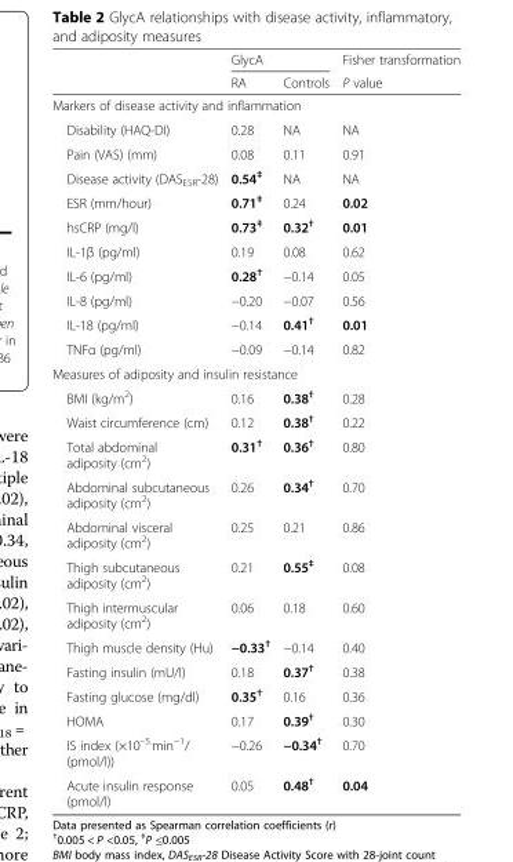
<table><thead><tr><td rowspan="2"></td><td colspan="2">GlycA</td><td rowspan="2">Fisher transformation P value</td></tr><tr><td>RA</td><td>Controls</td></tr></thead><tbody><tr><td colspan="4">Markers of disease activity and inflammation</td></tr><tr><td>Disability (HAQ-DI)</td><td>0.28</td><td>NA</td><td>NA</td></tr><tr><td>Pain (VAS) (mm)</td><td>0.08</td><td>0.11</td><td>0.91</td></tr><tr><td>Disease activity (DAS<sub>ESR</sub>-28)</td><td>0.54<sup>‡</sup></td><td>NA</td><td>NA</td></tr><tr><td>ESR (mm/hour)</td><td>0.71<sup>‡</sup></td><td>0.24</td><td>0.02</td></tr><tr><td>hsCRP (mg/l)</td><td>0.73<sup>‡</sup></td><td>0.32<sup>†</sup></td><td>0.01</td></tr><tr><td>IL-1β (pg/ml)</td><td>0.19</td><td>0.08</td><td>0.62</td></tr><tr><td>IL-6 (pg/ml)</td><td>0.28<sup>†</sup></td><td>−0.14</td><td>0.05</td></tr><tr><td>IL-8 (pg/ml)</td><td>−0.20</td><td>−0.07</td><td>0.56</td></tr><tr><td>IL-18 (pg/ml)</td><td>−0.14</td><td>0.41<sup>†</sup></td><td>0.01</td></tr><tr><td>TNFα (pg/ml)</td><td>−0.09</td><td>−0.14</td><td>0.82</td></tr><tr><td colspan="4">Measures of adiposity and insulin resistance</td></tr><tr><td>BMI (kg/m<sup>2</sup>)</td><td>0.16</td><td>0.38<sup>†</sup></td><td>0.28</td></tr><tr><td>Waist circumference (cm)</td><td>0.12</td><td>0.38<sup>†</sup></td><td>0.22</td></tr><tr><td>Total abdominal adiposity (cm<sup>2</sup>)</td><td>0.31<sup>†</sup></td><td>0.36<sup>†</sup></td><td>0.80</td></tr><tr><td>Abdominal subcutaneous adiposity (cm<sup>2</sup>)</td><td>0.26</td><td>0.34<sup>†</sup></td><td>0.70</td></tr><tr><td>Abdominal visceral adiposity (cm<sup>2</sup>)</td><td>0.25</td><td>0.21</td><td>0.86</td></tr><tr><td>Thigh subcutaneous adiposity (cm<sup>2</sup>)</td><td>0.21</td><td>0.55<sup>‡</sup></td><td>0.08</td></tr><tr><td>Thigh intermuscular adiposity (cm<sup>2</sup>)</td><td>0.06</td><td>0.18</td><td>0.60</td></tr><tr><td>Thigh muscle density (Hu)</td><td>−0.33<sup>†</sup></td><td>−0.14</td><td>0.40</td></tr><tr><td>Fasting insulin (mU/l)</td><td>0.18</td><td>0.37<sup>†</sup></td><td>0.38</td></tr><tr><td>Fasting glucose (mg/dl)</td><td>0.35<sup>†</sup></td><td>0.16</td><td>0.36</td></tr><tr><td>HOMA</td><td>0.17</td><td>0.39<sup>†</sup></td><td>0.30</td></tr><tr><td>IS index (×10<sup>–5.</sup>min<sup>−1</sup>/ (pmol/l))</td><td>−0.26</td><td>−0.34<sup>†</sup></td><td>0.70</td></tr><tr><td>Acute insulin response (pmol/l)</td><td>0.05</td><td>0.48<sup>†</sup></td><td>0.04</td></tr></tbody></table>